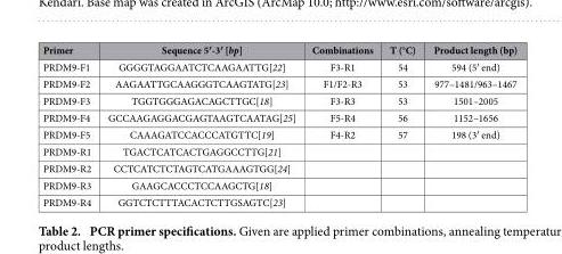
<table><thead><tr><td>Primer</td><td>Sequence 5′-3′ [bp]</td><td>Combinations</td><td>T (°C)</td><td>Product length (bp)</td></tr></thead><tbody><tr><td>PRDM9-F1</td><td>GGGGTAGGAATCTCAAGAATTG[22]</td><td>F3-R1</td><td>54</td><td>594 (5′ end)</td></tr><tr><td>PRDM9-F2</td><td>AAGAATTGCAAGGGTCAAGTATG[23]</td><td>F1/F2-R3</td><td>53</td><td>977–1481/963–1467</td></tr><tr><td>PRDM9-F3</td><td>TGGTGGGAGACAGCTTGC[18]</td><td>F3-R3</td><td>53</td><td>1501–2005</td></tr><tr><td>PRDM9-F4</td><td>GCCAAGAGGACGAGTAAGTCAATAG[25]</td><td>F5-R4</td><td>56</td><td>1152–1656</td></tr><tr><td>PRDM9-F5</td><td>CAAAGATCCACCCATGTTC[19]</td><td>F4-R2</td><td>57</td><td>198 (3′ end)</td></tr><tr><td>PRDM9-R1</td><td>TGACTCATCACTGAGGCCTTG[21]</td><td></td><td></td><td></td></tr><tr><td>PRDM9-R2</td><td>CCTCATCTCTAGTCATGAAAGTGG[24]</td><td></td><td></td><td></td></tr><tr><td>PRDM9-R3</td><td>GAAGCACCCTCCAAGCTG[18]</td><td></td><td></td><td></td></tr><tr><td>PRDM9-R4</td><td>GGTCTCTTTACACTCTTGSAGTC[23]</td><td></td><td></td><td></td></tr></tbody></table>